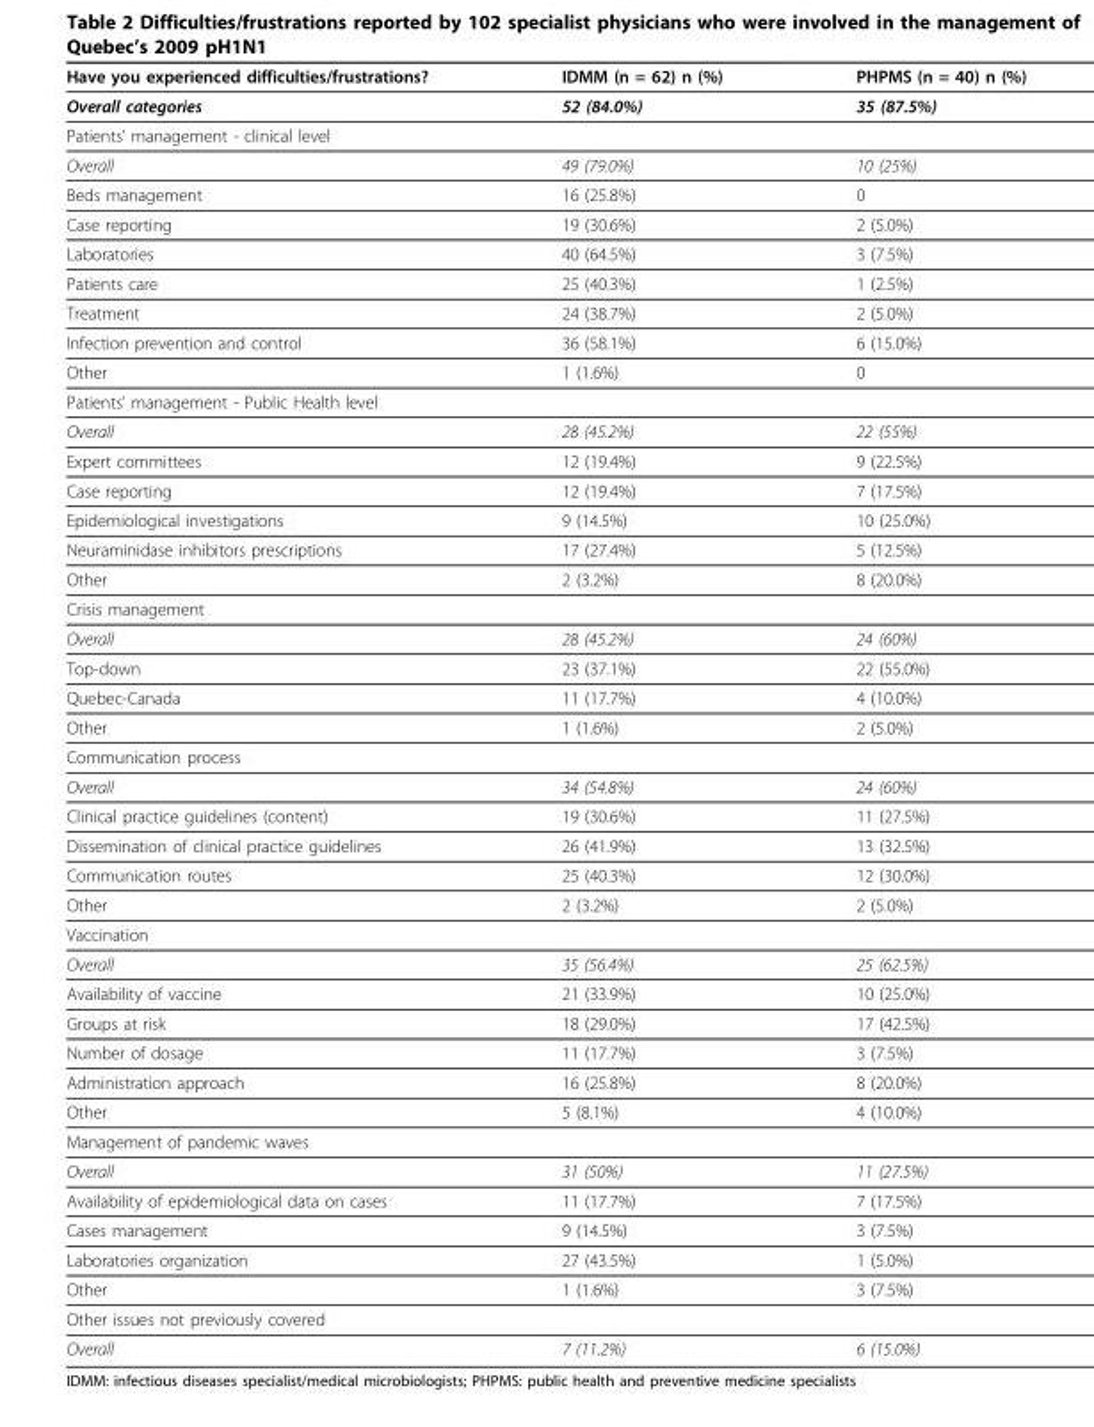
<table><thead><tr><td>Have you experienced difficulties/frustrations?</td><td>IDMM (n = 62) n (%)</td><td>PHPMS (n = 40) n (%)</td></tr></thead><tbody><tr><td>Overall categories</td><td>52 (84.0%)</td><td>35 (87.5%)</td></tr><tr><td colspan="3">Patients’ management - clinical level</td></tr><tr><td>Overall</td><td>49 (79.0%)</td><td>10 (25%)</td></tr><tr><td>Beds management</td><td>16 (25.8%)</td><td>0</td></tr><tr><td>Case reporting</td><td>19 (30.6%)</td><td>2 (5.0%)</td></tr><tr><td>Laboratories</td><td>40 (64.5%)</td><td>3 (7.5%)</td></tr><tr><td>Patients care</td><td>25 (40.3%)</td><td>1 (2.5%)</td></tr><tr><td>Treatment</td><td>24 (38.7%)</td><td>2 (5.0%)</td></tr><tr><td>Infection prevention and control</td><td>36 (58.1%)</td><td>6 (15.0%)</td></tr><tr><td>Other</td><td>1 (1.6%)</td><td>0</td></tr><tr><td colspan="3">Patients’ management - Public Health level</td></tr><tr><td>Overall</td><td>28 (45.2%)</td><td>22 (55%)</td></tr><tr><td>Expert committees</td><td>12 (19.4%)</td><td>9 (22.5%)</td></tr><tr><td>Case reporting</td><td>12 (19.4%)</td><td>7 (17.5%)</td></tr><tr><td>Epidemiological investigations</td><td>9 (14.5%)</td><td>10 (25.0%)</td></tr><tr><td>Neuraminidase inhibitors prescriptions</td><td>17 (27.4%)</td><td>5 (12.5%)</td></tr><tr><td>Other</td><td>2 (3.2%)</td><td>8 (20.0%)</td></tr><tr><td colspan="3">Crisis management</td></tr><tr><td>Overall</td><td>28 (45.2%)</td><td>24 (60%)</td></tr><tr><td>Top-down</td><td>23 (37.1%)</td><td>22 (55.0%)</td></tr><tr><td>Quebec-Canada</td><td>11 (17.7%)</td><td>4 (10.0%)</td></tr><tr><td>Other</td><td>1 (1.6%)</td><td>2 (5.0%)</td></tr><tr><td colspan="3">Communication process</td></tr><tr><td>Overall</td><td>34 (54.8%)</td><td>24 (60%)</td></tr><tr><td>Clinical practice guidelines (content)</td><td>19 (30.6%)</td><td>11 (27.5%)</td></tr><tr><td>Dissemination of clinical practice guidelines</td><td>26 (41.9%)</td><td>13 (32.5%)</td></tr><tr><td>Communication routes</td><td>25 (40.3%)</td><td>12 (30.0%)</td></tr><tr><td>Other</td><td>2 (3.2%)</td><td>2 (5.0%)</td></tr><tr><td colspan="3">Vaccination</td></tr><tr><td>Overall</td><td>35 (56.4%)</td><td>25 (62.5%)</td></tr><tr><td>Availability of vaccine</td><td>21 (33.9%)</td><td>10 (25.0%)</td></tr><tr><td>Groups at risk</td><td>18 (29.0%)</td><td>17 (42.5%)</td></tr><tr><td>Number of dosage</td><td>11 (17.7%)</td><td>3 (7.5%)</td></tr><tr><td>Administration approach</td><td>16 (25.8%)</td><td>8 (20.0%)</td></tr><tr><td>Other</td><td>5 (8.1%)</td><td>4 (10.0%)</td></tr><tr><td colspan="3">Management of pandemic waves</td></tr><tr><td>Overall</td><td>31 (50%)</td><td>11 (27.5%)</td></tr><tr><td>Availability of epidemiological data on cases</td><td>11 (17.7%)</td><td>7 (17.5%)</td></tr><tr><td>Cases management</td><td>9 (14.5%)</td><td>3 (7.5%)</td></tr><tr><td>Laboratories organization</td><td>27 (43.5%)</td><td>1 (5.0%)</td></tr><tr><td>Other</td><td>1 (1.6%)</td><td>3 (7.5%)</td></tr><tr><td colspan="3">Other issues not previously covered</td></tr><tr><td>Overall</td><td>7 (11.2%)</td><td>6 (15.0%)</td></tr></tbody></table>